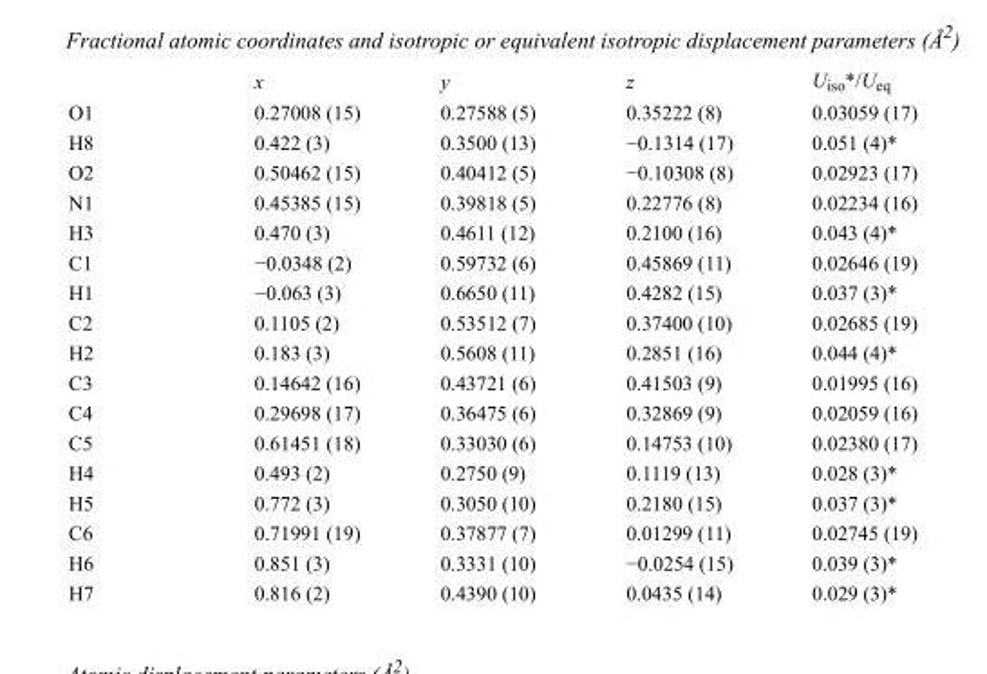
<table><thead><tr><td></td><td>x</td><td>y</td><td>z</td><td>U<sub>iso</sub>*/U<sub>eq</sub></td></tr></thead><tbody><tr><td>O1</td><td>0.27008 (15)</td><td>0.27588 (5)</td><td>0.35222 (8)</td><td>0.03059 (17)</td></tr><tr><td>H8</td><td>0.422 (3)</td><td>0.3500 (13)</td><td>−0.1314 (17)</td><td>0.051 (4)*</td></tr><tr><td>O2</td><td>0.50462 (15)</td><td>0.40412 (5)</td><td>−0.10308 (8)</td><td>0.02923 (17)</td></tr><tr><td>N1</td><td>0.45385 (15)</td><td>0.39818 (5)</td><td>0.22776 (8)</td><td>0.02234 (16)</td></tr><tr><td>H3</td><td>0.470 (3)</td><td>0.4611 (12)</td><td>0.2100 (16)</td><td>0.043 (4)*</td></tr><tr><td>C1</td><td>−0.0348 (2)</td><td>0.59732 (6)</td><td>0.45869 (11)</td><td>0.02646 (19)</td></tr><tr><td>H1</td><td>−0.063 (3)</td><td>0.6650 (11)</td><td>0.4282 (15)</td><td>0.037 (3)*</td></tr><tr><td>C2</td><td>0.1105 (2)</td><td>0.53512 (7)</td><td>0.37400 (10)</td><td>0.02685 (19)</td></tr><tr><td>H2</td><td>0.183 (3)</td><td>0.5608 (11)</td><td>0.2851 (16)</td><td>0.044 (4)*</td></tr><tr><td>C3</td><td>0.14642 (16)</td><td>0.43721 (6)</td><td>0.41503 (9)</td><td>0.01995 (16)</td></tr><tr><td>C4</td><td>0.29698 (17)</td><td>0.36475 (6)</td><td>0.32869 (9)</td><td>0.02059 (16)</td></tr><tr><td>C5</td><td>0.61451 (18)</td><td>0.33030 (6)</td><td>0.14753 (10)</td><td>0.02380 (17)</td></tr><tr><td>H4</td><td>0.493 (2)</td><td>0.2750 (9)</td><td>0.1119 (13)</td><td>0.028 (3)*</td></tr><tr><td>H5</td><td>0.772 (3)</td><td>0.3050 (10)</td><td>0.2180 (15)</td><td>0.037 (3)*</td></tr><tr><td>C6</td><td>0.71991 (19)</td><td>0.37877 (7)</td><td>0.01299 (11)</td><td>0.02745 (19)</td></tr><tr><td>H6</td><td>0.851 (3)</td><td>0.3331 (10)</td><td>−0.0254 (15)</td><td>0.039 (3)*</td></tr><tr><td>H7</td><td>0.816 (2)</td><td>0.4390 (10)</td><td>0.0435 (14)</td><td>0.029 (3)*</td></tr></tbody></table>